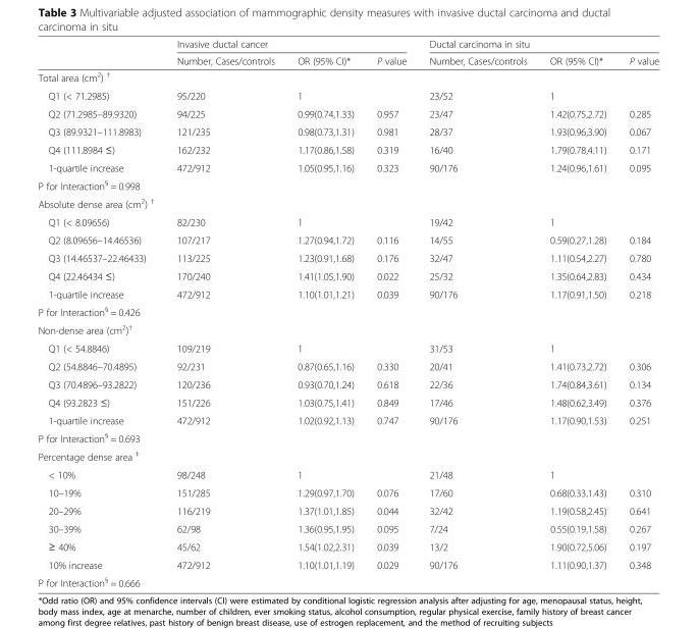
<table><thead><tr><td rowspan="2"></td><td colspan="3">Invasive ductal cancer</td><td colspan="3">Ductal carcinoma in situ</td></tr><tr><td>Number, Cases/controls</td><td>OR (95% CI)*</td><td>P value</td><td>Number, Cases/controls</td><td>OR (95% CI)*</td><td>P value</td></tr></thead><tbody><tr><td colspan="7">Total area (cm<sup>2</sup>) <sup>†</sup></td></tr><tr><td>Q1 (&lt; 71.2985)</td><td>95/220</td><td>1</td><td></td><td>23/52</td><td>1</td><td></td></tr><tr><td>Q2 (71.2985–89.9320)</td><td>94/225</td><td>0.99(0.74,1.33)</td><td>0.957</td><td>23/47</td><td>1.42(0.75,2.72)</td><td>0.285</td></tr><tr><td>Q3 (89.9321–111.8983)</td><td>121/235</td><td>0.98(0.73,1.31)</td><td>0.981</td><td>28/37</td><td>1.93(0.96,3.90)</td><td>0.067</td></tr><tr><td>Q4 (111.8984 ≤)</td><td>162/232</td><td>1.17(0.86,1.58)</td><td>0.319</td><td>16/40</td><td>1.79(0.78,4.11)</td><td>0.171</td></tr><tr><td>1-quartile increase</td><td>472/912</td><td>1.05(0.95,1.16)</td><td>0.323</td><td>90/176</td><td>1.24(0.96,1.61)</td><td>0.095</td></tr><tr><td colspan="7">P for Interaction<sup>§</sup> = 0.998</td></tr><tr><td colspan="7">Absolute dense area (cm<sup>2</sup>) <sup>†</sup></td></tr><tr><td>Q1 (&lt; 8.09656)</td><td>82/230</td><td>1</td><td></td><td>19/42</td><td>1</td><td></td></tr><tr><td>Q2 (8.09656–14.46536)</td><td>107/217</td><td>1.27(0.94,1.72)</td><td>0.116</td><td>14/55</td><td>0.59(0.27,1.28)</td><td>0.184</td></tr><tr><td>Q3 (14.46537–22.46433)</td><td>113/225</td><td>1.23(0.91,1.68)</td><td>0.176</td><td>32/47</td><td>1.11(0.54,2.27)</td><td>0.780</td></tr><tr><td>Q4 (22.46434 ≤)</td><td>170/240</td><td>1.41(1.05,1.90)</td><td>0.022</td><td>25/32</td><td>1.35(0.64,2.83)</td><td>0.434</td></tr><tr><td>1-quartile increase</td><td>472/912</td><td>1.10(1.01,1.21)</td><td>0.039</td><td>90/176</td><td>1.17(0.91,1.50)</td><td>0.218</td></tr><tr><td colspan="7">P for Interaction<sup>§</sup> = 0.426</td></tr><tr><td colspan="7">Non-dense area (cm<sup>2</sup>)<sup>†</sup></td></tr><tr><td>Q1 (&lt; 54.8846)</td><td>109/219</td><td>1</td><td></td><td>31/53</td><td>1</td><td></td></tr><tr><td>Q2 (54.8846–70.4895)</td><td>92/231</td><td>0.87(0.65,1.16)</td><td>0.330</td><td>20/41</td><td>1.41(0.73,2.72)</td><td>0.306</td></tr><tr><td>Q3 (70.4896–93.2822)</td><td>120/236</td><td>0.93(0.70,1.24)</td><td>0.618</td><td>22/36</td><td>1.74(0.84,3.61)</td><td>0.134</td></tr><tr><td>Q4 (93.2823 ≤)</td><td>151/226</td><td>1.03(0.75,1.41)</td><td>0.849</td><td>17/46</td><td>1.48(0.62,3.49)</td><td>0.376</td></tr><tr><td>1-quartile increase</td><td>472/912</td><td>1.02(0.92,1.13)</td><td>0.747</td><td>90/176</td><td>1.17(0.90,1.53)</td><td>0.251</td></tr><tr><td colspan="7">P for Interaction<sup>§</sup> = 0.693</td></tr><tr><td colspan="7">Percentage dense area <sup>‡</sup></td></tr><tr><td>&lt; 10%</td><td>98/248</td><td>1</td><td></td><td>21/48</td><td>1</td><td></td></tr><tr><td>10–19%</td><td>151/285</td><td>1.29(0.97,1.70)</td><td>0.076</td><td>17/60</td><td>0.68(0.33,1.43)</td><td>0.310</td></tr><tr><td>20–29%</td><td>116/219</td><td>1.37(1.01,1.85)</td><td>0.044</td><td>32/42</td><td>1.19(0.58,2.45)</td><td>0.641</td></tr><tr><td>30–39%</td><td>62/98</td><td>1.36(0.95,1.95)</td><td>0.095</td><td>7/24</td><td>0.55(0.19,1.58)</td><td>0.267</td></tr><tr><td>≥ 40%</td><td>45/62</td><td>1.54(1.02,2.31)</td><td>0.039</td><td>13/2</td><td>1.90(0.72,5.06)</td><td>0.197</td></tr><tr><td>10% increase</td><td>472/912</td><td>1.10(1.01,1.19)</td><td>0.029</td><td>90/176</td><td>1.11(0.90,1.37)</td><td>0.348</td></tr><tr><td colspan="7">P for Interaction<sup>§</sup> = 0.666</td></tr></tbody></table>